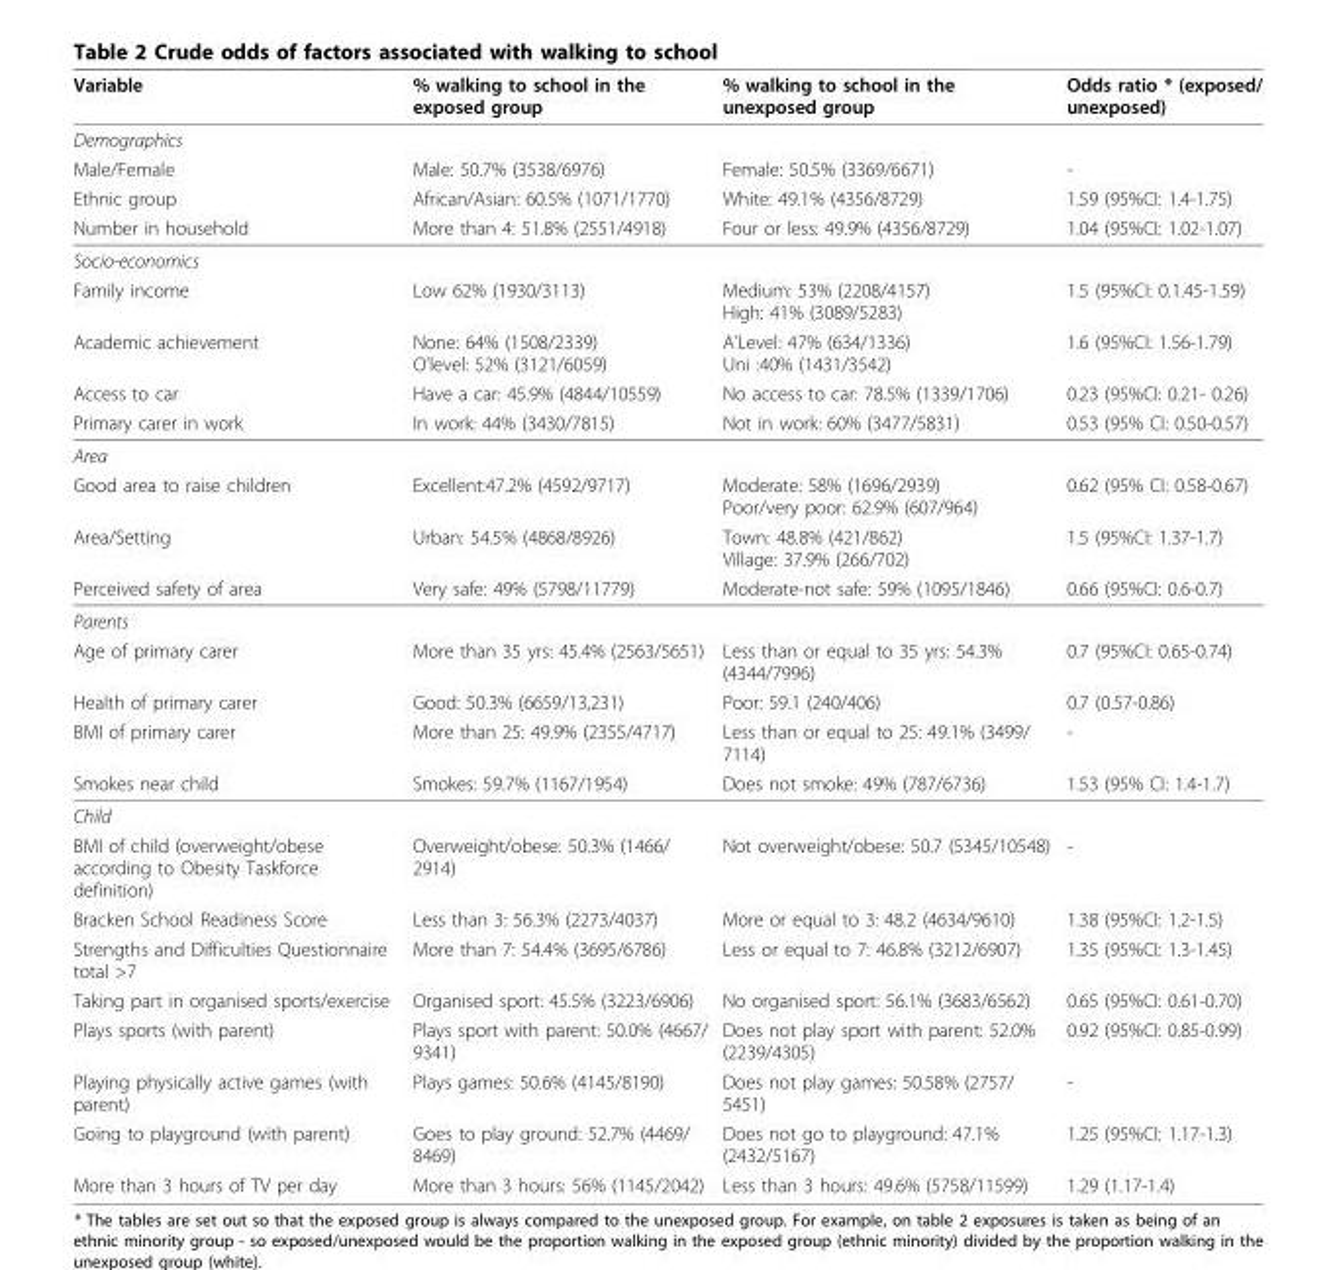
<table><thead><tr><td>Variable</td><td>% walking to school in the exposed group</td><td>% walking to school in the unexposed group</td><td>Odds ratio * (exposed/ unexposed)</td></tr></thead><tbody><tr><td colspan="4">Demographics</td></tr><tr><td>Male/Female</td><td>Male: 50.7% (3538/6976)</td><td>Female: 50.5% (3369/6671)</td><td>-</td></tr><tr><td>Ethnic group</td><td>African/Asian: 60.5% (1071/1770)</td><td>White: 49.1% (4356/8729)</td><td>1.59 (95%CI: 1.4-1.75)</td></tr><tr><td>Number in household</td><td>More than 4: 51.8% (2551/4918)</td><td>Four or less: 49.9% (4356/8729)</td><td>1.04 (95%CI: 1.02-1.07)</td></tr><tr><td colspan="4">Socio-economics</td></tr><tr><td>Family income</td><td>Low 62% (1930/3113)</td><td>Medium: 53% (2208/4157) High: 41% (3089/5283)</td><td>1.5 (95%CI: 0.1.45-1.59)</td></tr><tr><td>Academic achievement</td><td>None: 64% (1508/2339) O’level: 52% (3121/6059)</td><td>A’Level: 47% (634/1336) Uni :40% (1431/3542)</td><td>1.6 (95%CI: 1.56-1.79)</td></tr><tr><td>Access to car</td><td>Have a car: 45.9% (4844/10559)</td><td>No access to car: 78.5% (1339/1706)</td><td>0.23 (95%CI: 0.21- 0.26)</td></tr><tr><td>Primary carer in work</td><td>In work: 44% (3430/7815)</td><td>Not in work: 60% (3477/5831)</td><td>0.53 (95% CI: 0.50-0.57)</td></tr><tr><td colspan="4">Area</td></tr><tr><td>Good area to raise children</td><td>Excellent:47.2% (4592/9717)</td><td>Moderate: 58% (1696/2939) Poor/very poor: 62.9% (607/964)</td><td>0.62 (95% CI: 0.58-0.67)</td></tr><tr><td>Area/Setting</td><td>Urban: 54.5% (4868/8926)</td><td>Town: 48.8% (421/862) Village: 37.9% (266/702)</td><td>1.5 (95%CI: 1.37-1.7)</td></tr><tr><td>Perceived safety of area</td><td>Very safe: 49% (5798/11779)</td><td>Moderate-not safe: 59% (1095/1846)</td><td>0.66 (95%CI: 0.6-0.7)</td></tr><tr><td colspan="4">Parents</td></tr><tr><td>Age of primary carer</td><td>More than 35 yrs: 45.4% (2563/5651)</td><td>Less than or equal to 35 yrs: 54.3% (4344/7996)</td><td>0.7 (95%CI: 0.65-0.74)</td></tr><tr><td>Health of primary carer</td><td>Good: 50.3% (6659/13,231)</td><td>Poor: 59.1 (240/406)</td><td>0.7 (0.57-0.86)</td></tr><tr><td>BMI of primary carer</td><td>More than 25: 49.9% (2355/4717)</td><td>Less than or equal to 25: 49.1% (3499/ 7114)</td><td>-</td></tr><tr><td>Smokes near child</td><td>Smokes: 59.7% (1167/1954)</td><td>Does not smoke: 49% (787/6736)</td><td>1.53 (95% CI: 1.4-1.7)</td></tr><tr><td colspan="4">Child</td></tr><tr><td>BMI of child (overweight/obese according to Obesity Taskforce definition)</td><td>Overweight/obese: 50.3% (1466/ 2914)</td><td>Not overweight/obese: 50.7 (5345/10548)</td><td>-</td></tr><tr><td>Bracken School Readiness Score</td><td>Less than 3: 56.3% (2273/4037)</td><td>More or equal to 3: 48.2 (4634/9610)</td><td>1.38 (95%CI: 1.2-1.5)</td></tr><tr><td>Strengths and Difficulties Questionnaire total &gt;7</td><td>More than 7: 54.4% (3695/6786)</td><td>Less or equal to 7: 46.8% (3212/6907)</td><td>1.35 (95%CI: 1.3-1.45)</td></tr><tr><td>Taking part in organised sports/exercise</td><td>Organised sport: 45.5% (3223/6906)</td><td>No organised sport: 56.1% (3683/6562)</td><td>0.65 (95%CI: 0.61-0.70)</td></tr><tr><td>Plays sports (with parent)</td><td>Plays sport with parent: 50.0% (4667/ 9341)</td><td>Does not play sport with parent: 52.0% (2239/4305)</td><td>0.92 (95%CI: 0.85-0.99)</td></tr><tr><td>Playing physically active games (with parent)</td><td>Plays games: 50.6% (4145/8190)</td><td>Does not play games: 50.58% (2757/ 5451)</td><td>-</td></tr><tr><td>Going to playground (with parent)</td><td>Goes to play ground: 52.7% (4469/ 8469)</td><td>Does not go to playground: 47.1% (2432/5167)</td><td>1.25 (95%CI: 1.17-1.3)</td></tr><tr><td>More than 3 hours of TV per day</td><td>More than 3 hours: 56% (1145/2042)</td><td>Less than 3 hours: 49.6% (5758/11599)</td><td>1.29 (1.17-1.4)</td></tr></tbody></table>